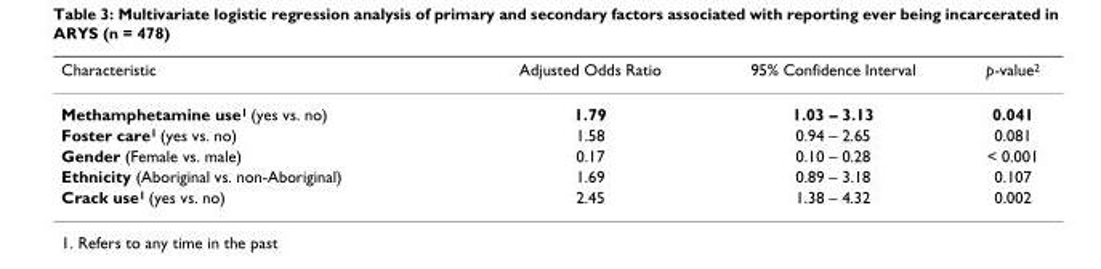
<table><thead><tr><td>Characteristic</td><td>Adjusted Odds Ratio</td><td>95% Confidence Interval</td><td>p-value<sup>2</sup></td></tr></thead><tbody><tr><td>Methamphetamine use<sup>1</sup> (yes vs. no)</td><td>1.79</td><td>1.03 – 3.13</td><td>0.041</td></tr><tr><td>Foster care<sup>1</sup> (yes vs. no)</td><td>1.58</td><td>0.94 – 2.65</td><td>0.081</td></tr><tr><td>Gender (Female vs. male)</td><td>0.17</td><td>0.10 – 0.28</td><td>&lt; 0.001</td></tr><tr><td>Ethnicity (Aboriginal vs. non-Aboriginal)</td><td>1.69</td><td>0.89 – 3.18</td><td>0.107</td></tr><tr><td>Crack use<sup>1</sup> (yes vs. no)</td><td>2.45</td><td>1.38 – 4.32</td><td>0.002</td></tr></tbody></table>